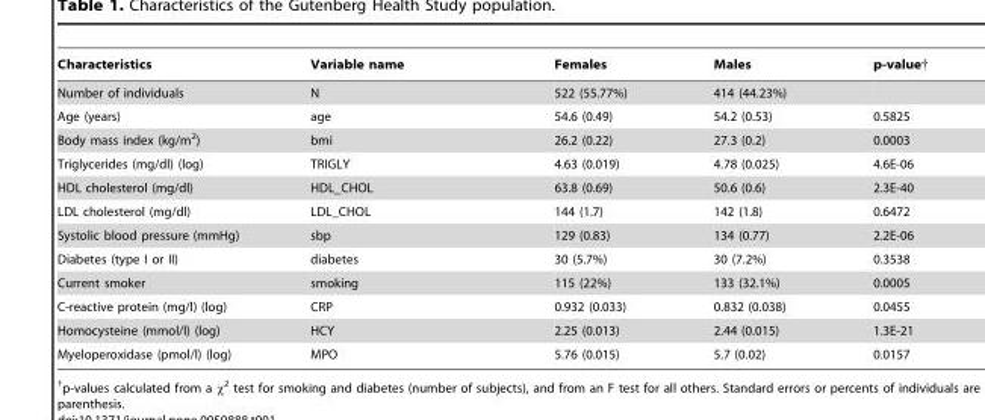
<table><thead><tr><td>Characteristics</td><td>Variable name</td><td>Females</td><td>Males</td><td>p-value†</td></tr></thead><tbody><tr><td>Number of individuals</td><td>N</td><td>522 (55.77%)</td><td>414 (44.23%)</td><td></td></tr><tr><td>Age (years)</td><td>age</td><td>54.6 (0.49)</td><td>54.2 (0.53)</td><td>0.5825</td></tr><tr><td>Body mass index (kg/m<sup>2</sup>)</td><td>bmi</td><td>26.2 (0.22)</td><td>27.3 (0.2)</td><td>0.0003</td></tr><tr><td>Triglycerides (mg/dl) (log)</td><td>TRIGLY</td><td>4.63 (0.019)</td><td>4.78 (0.025)</td><td>4.6E-06</td></tr><tr><td>HDL cholesterol (mg/dl)</td><td>HDL_CHOL</td><td>63.8 (0.69)</td><td>50.6 (0.6)</td><td>2.3E-40</td></tr><tr><td>LDL cholesterol (mg/dl)</td><td>LDL_CHOL</td><td>144 (1.7)</td><td>142 (1.8)</td><td>0.6472</td></tr><tr><td>Systolic blood pressure (mmHg)</td><td>sbp</td><td>129 (0.83)</td><td>134 (0.77)</td><td>2.2E-06</td></tr><tr><td>Diabetes (type I or II)</td><td>diabetes</td><td>30 (5.7%)</td><td>30 (7.2%)</td><td>0.3538</td></tr><tr><td>Current smoker</td><td>smoking</td><td>115 (22%)</td><td>133 (32.1%)</td><td>0.0005</td></tr><tr><td>C-reactive protein (mg/l) (log)</td><td>CRP</td><td>0.932 (0.033)</td><td>0.832 (0.038)</td><td>0.0455</td></tr><tr><td>Homocysteine (mmol/l) (log)</td><td>HCY</td><td>2.25 (0.013)</td><td>2.44 (0.015)</td><td>1.3E-21</td></tr><tr><td>Myeloperoxidase (pmol/l) (log)</td><td>MPO</td><td>5.76 (0.015)</td><td>5.7 (0.02)</td><td>0.0157</td></tr></tbody></table>